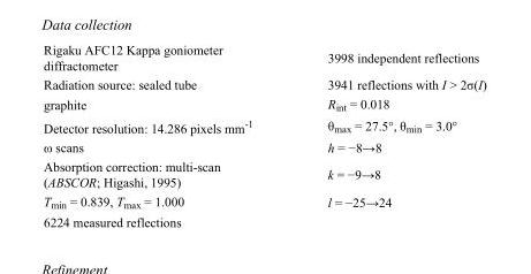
<table><tbody><tr><td>Rigaku AFC12 Kappa goniometer diffractometer</td><td>3998 independent reflections</td></tr><tr><td>Radiation source: sealed tube</td><td>3941 reflections with I &gt; 2σ(I)</td></tr><tr><td>graphite</td><td>R<sub>int</sub> = 0.018</td></tr><tr><td>Detector resolution: 14.286 pixels mm<sup>-1</sup></td><td>θ<sub>max</sub> = 27.5°, θ<sub>min</sub> = 3.0°</td></tr><tr><td>ω scans</td><td>h = −8→8</td></tr><tr><td>Absorption correction: multi-scan (ABSCOR; Higashi, 1995)</td><td>k = −9→8</td></tr><tr><td>T<sub>min</sub> = 0.839, T<sub>max</sub> = 1.000</td><td>l = −25→24</td></tr><tr><td>6224 measured reflections</td><td></td></tr></tbody></table>